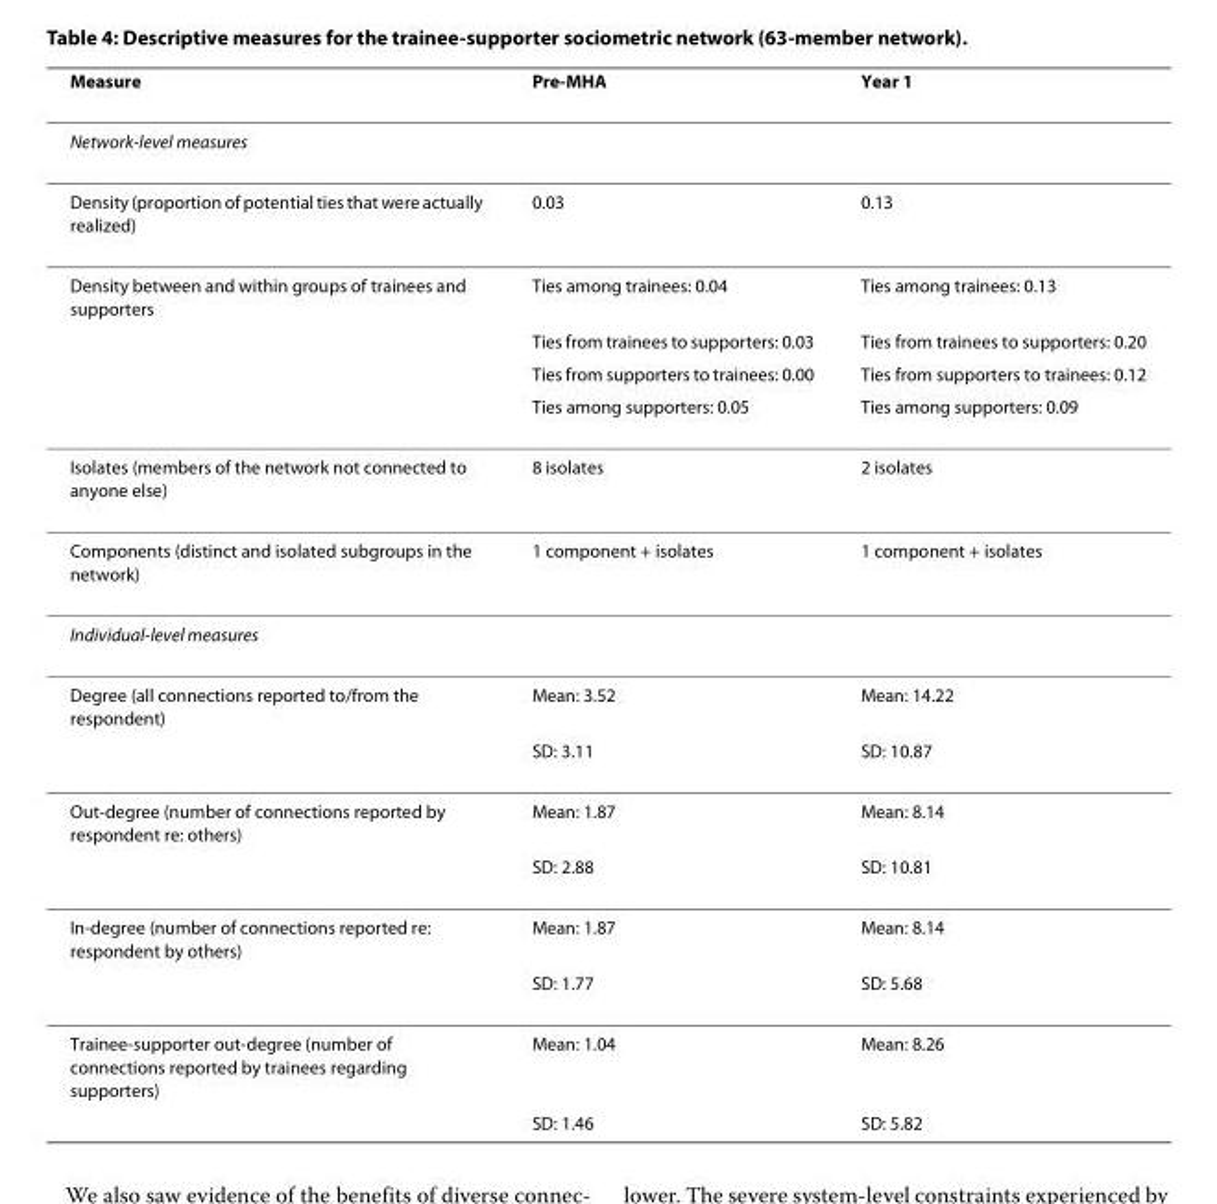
<table><thead><tr><td>Measure</td><td>Pre-MHA</td><td>Year 1</td></tr></thead><tbody><tr><td colspan="3">Network-level measures</td></tr><tr><td>Density (proportion of potential ties that were actually realized)</td><td>0.03</td><td>0.13</td></tr><tr><td rowspan="4">Density between and within groups of trainees and supporters</td><td>Ties among trainees: 0.04</td><td>Ties among trainees: 0.13</td></tr><tr><td>Ties from trainees to supporters: 0.03</td><td>Ties from trainees to supporters: 0.20</td></tr><tr><td>Ties from supporters to trainees: 0.00</td><td>Ties from supporters to trainees: 0.12</td></tr><tr><td>Ties among supporters: 0.05</td><td>Ties among supporters: 0.09</td></tr><tr><td>Isolates (members of the network not connected to anyone else)</td><td>8 isolates</td><td>2 isolates</td></tr><tr><td>Components (distinct and isolated subgroups in the network)</td><td>1 component + isolates</td><td>1 component + isolates</td></tr><tr><td colspan="3">Individual-level measures</td></tr><tr><td rowspan="2">Degree (all connections reported to/from the respondent)</td><td>Mean: 3.52</td><td>Mean: 14.22</td></tr><tr><td>SD: 3.11</td><td>SD: 10.87</td></tr><tr><td rowspan="2">Out-degree (number of connections reported by respondent re: others)</td><td>Mean: 1.87</td><td>Mean: 8.14</td></tr><tr><td>SD: 2.88</td><td>SD: 10.81</td></tr><tr><td rowspan="2">In-degree (number of connections reported re: respondent by others)</td><td>Mean: 1.87</td><td>Mean: 8.14</td></tr><tr><td>SD: 1.77</td><td>SD: 5.68</td></tr><tr><td rowspan="2">Trainee-supporter out-degree (number of connections reported by trainees regarding supporters)</td><td>Mean: 1.04</td><td>Mean: 8.26</td></tr><tr><td>SD: 1.46</td><td>SD: 5.82</td></tr></tbody></table>